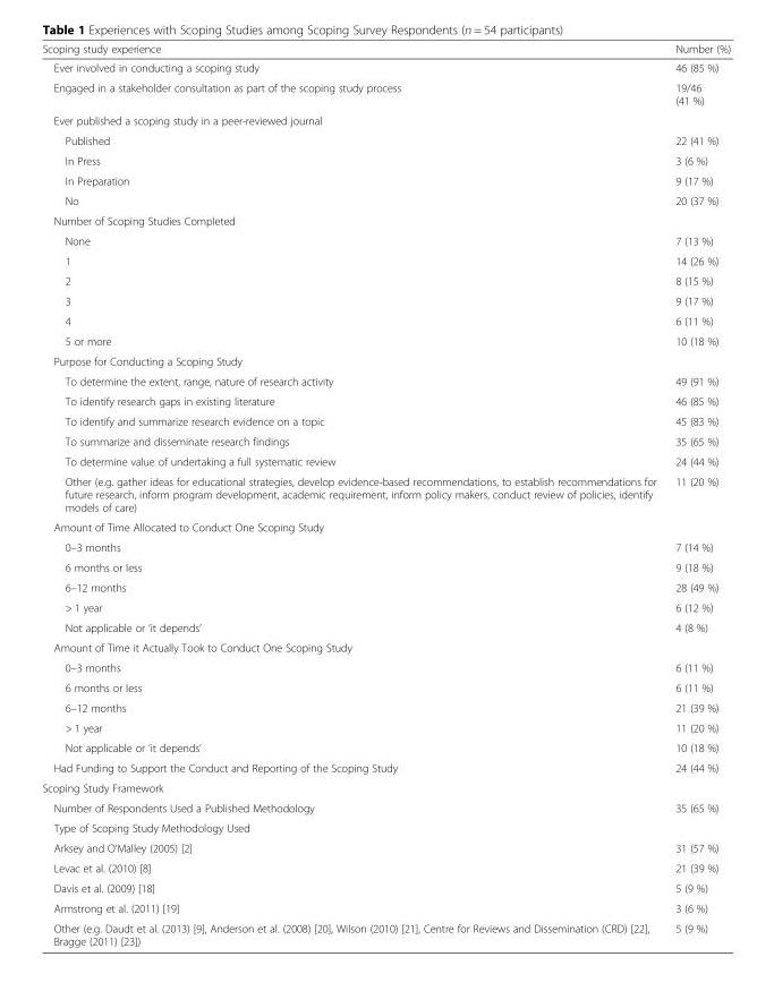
<table><thead><tr><td>Scoping study experience</td><td>Number (%)</td></tr></thead><tbody><tr><td>Ever involved in conducting a scoping study</td><td>46 (85 %)</td></tr><tr><td>Engaged in a stakeholder consultation as part of the scoping study process</td><td>19/46 (41 %)</td></tr><tr><td colspan="2">Ever published a scoping study in a peer-reviewed journal</td></tr><tr><td>Published</td><td>22 (41 %)</td></tr><tr><td>In Press</td><td>3 (6 %)</td></tr><tr><td>In Preparation</td><td>9 (17 %)</td></tr><tr><td>No</td><td>20 (37 %)</td></tr><tr><td colspan="2">Number of Scoping Studies Completed</td></tr><tr><td>None</td><td>7 (13 %)</td></tr><tr><td>1</td><td>14 (26 %)</td></tr><tr><td>2</td><td>8 (15 %)</td></tr><tr><td>3</td><td>9 (17 %)</td></tr><tr><td>4</td><td>6 (11 %)</td></tr><tr><td>5 or more</td><td>10 (18 %)</td></tr><tr><td colspan="2">Purpose for Conducting a Scoping Study</td></tr><tr><td>To determine the extent, range, nature of research activity</td><td>49 (91 %)</td></tr><tr><td>To identify research gaps in existing literature</td><td>46 (85 %)</td></tr><tr><td>To identify and summarize research evidence on a topic</td><td>45 (83 %)</td></tr><tr><td>To summarize and disseminate research findings</td><td>35 (65 %)</td></tr><tr><td>To determine value of undertaking a full systematic review</td><td>24 (44 %)</td></tr><tr><td>Other (e.g. gather ideas for educational strategies, develop evidence-based recommendations, to establish recommendations for future research, inform program development, academic requirement, inform policy makers, conduct review of policies, identify models of care)</td><td>11 (20 %)</td></tr><tr><td colspan="2">Amount of Time Allocated to Conduct One Scoping Study</td></tr><tr><td>0–3 months</td><td>7 (14 %)</td></tr><tr><td>6 months or less</td><td>9 (18 %)</td></tr><tr><td>6–12 months</td><td>28 (49 %)</td></tr><tr><td>&gt; 1 year</td><td>6 (12 %)</td></tr><tr><td>Not applicable or ‘it depends’</td><td>4 (8 %)</td></tr><tr><td colspan="2">Amount of Time it Actually Took to Conduct One Scoping Study</td></tr><tr><td>0–3 months</td><td>6 (11 %)</td></tr><tr><td>6 months or less</td><td>6 (11 %)</td></tr><tr><td>6–12 months</td><td>21 (39 %)</td></tr><tr><td>&gt; 1 year</td><td>11 (20 %)</td></tr><tr><td>Not applicable or ‘it depends’</td><td>10 (18 %)</td></tr><tr><td>Had Funding to Support the Conduct and Reporting of the Scoping Study</td><td>24 (44 %)</td></tr><tr><td colspan="2">Scoping Study Framework</td></tr><tr><td>Number of Respondents Used a Published Methodology</td><td>35 (65 %)</td></tr><tr><td colspan="2">Type of Scoping Study Methodology Used</td></tr><tr><td>Arksey and O’Malley (2005) [2]</td><td>31 (57 %)</td></tr><tr><td>Levac et al. (2010) [8]</td><td>21 (39 %)</td></tr><tr><td>Davis et al. (2009) [18]</td><td>5 (9 %)</td></tr><tr><td>Armstrong et al. (2011) [19]</td><td>3 (6 %)</td></tr><tr><td>Other (e.g. Daudt et al. (2013) [9], Anderson et al. (2008) [20], Wilson (2010) [21], Centre for Reviews and Dissemination (CRD) [22], Bragge (2011) [23])</td><td>5 (9 %)</td></tr></tbody></table>